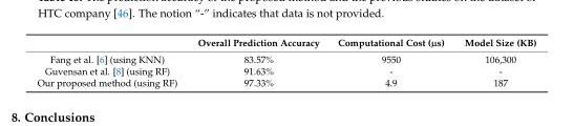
<table><thead><tr><td></td><td>Overall Prediction Accuracy</td><td>Computational Cost (µs)</td><td>Model Size (KB)</td></tr></thead><tbody><tr><td>Fang et al. [6] (using KNN)</td><td>83.57%</td><td>9550</td><td>106,300</td></tr><tr><td>Guvensan et al. [8] (using RF)</td><td>91.63%</td><td>-</td><td>-</td></tr><tr><td>Our proposed method (using RF)</td><td>97.33%</td><td>4.9</td><td>187</td></tr></tbody></table>